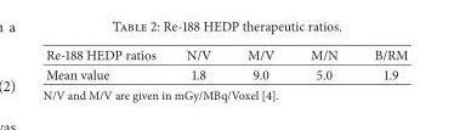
<table><thead><tr><td>Re-188 HEDP ratios</td><td>N/V</td><td>M/V</td><td>M/N</td><td>B/RM</td></tr></thead><tbody><tr><td>Mean value</td><td>1.8</td><td>9.0</td><td>5.0</td><td>1.9</td></tr></tbody></table>